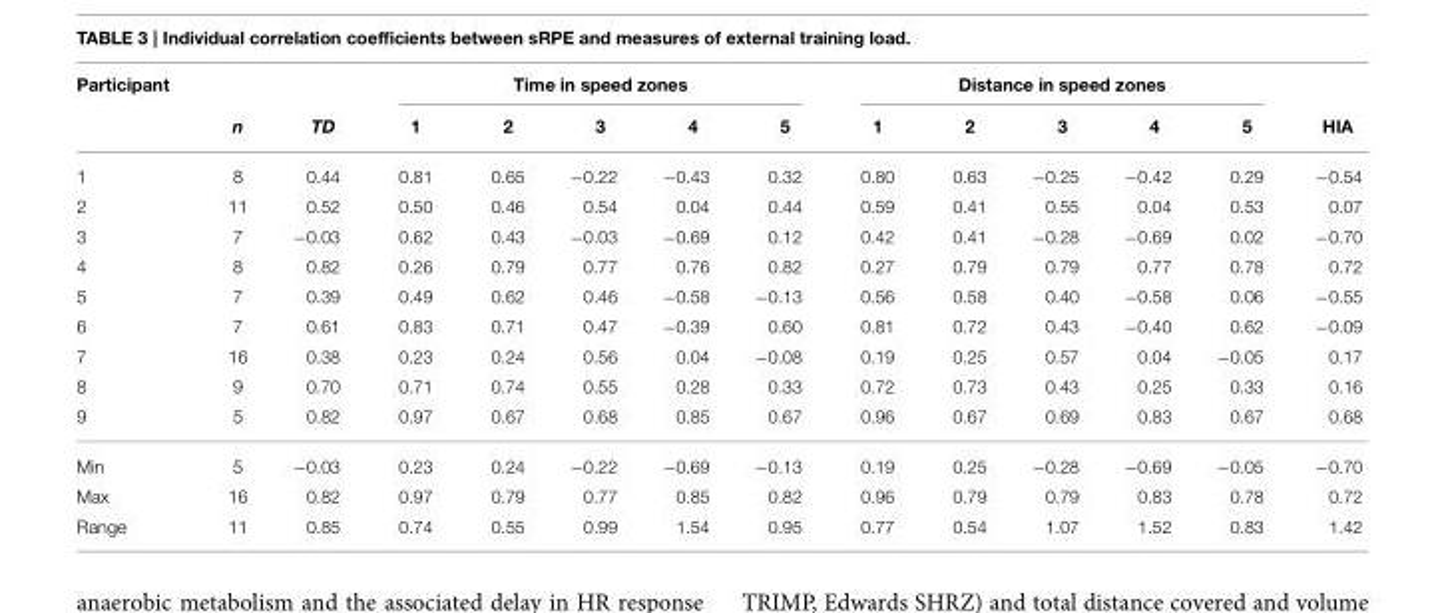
<table><thead><tr><td rowspan="2">Participant</td><td rowspan="2">n</td><td rowspan="2">TD</td><td colspan="5">Time in speed zones</td><td colspan="5">Distance in speed zones</td><td rowspan="2">HIA</td></tr><tr><td>1</td><td>2</td><td>3</td><td>4</td><td>5</td><td>1</td><td>2</td><td>3</td><td>4</td><td>5</td></tr></thead><tbody><tr><td>1</td><td>8</td><td>0.44</td><td>0.81</td><td>0.65</td><td>−0.22</td><td>−0.43</td><td>0.32</td><td>0.80</td><td>0.63</td><td>−0.25</td><td>−0.42</td><td>0.29</td><td>−0.54</td></tr><tr><td>2</td><td>11</td><td>0.52</td><td>0.50</td><td>0.46</td><td>0.54</td><td>0.04</td><td>0.44</td><td>0.59</td><td>0.41</td><td>0.55</td><td>0.04</td><td>0.53</td><td>0.07</td></tr><tr><td>3</td><td>7</td><td>−0.03</td><td>0.62</td><td>0.43</td><td>−0.03</td><td>−0.69</td><td>0.12</td><td>0.42</td><td>0.41</td><td>−0.28</td><td>−0.69</td><td>0.02</td><td>−0.70</td></tr><tr><td>4</td><td>8</td><td>0.82</td><td>0.26</td><td>0.79</td><td>0.77</td><td>0.76</td><td>0.82</td><td>0.27</td><td>0.79</td><td>0.79</td><td>0.77</td><td>0.78</td><td>0.72</td></tr><tr><td>5</td><td>7</td><td>0.39</td><td>0.49</td><td>0.62</td><td>0.46</td><td>−0.58</td><td>−0.13</td><td>0.56</td><td>0.58</td><td>0.40</td><td>−0.58</td><td>0.06</td><td>−0.55</td></tr><tr><td>6</td><td>7</td><td>0.61</td><td>0.83</td><td>0.71</td><td>0.47</td><td>−0.39</td><td>0.60</td><td>0.81</td><td>0.72</td><td>0.43</td><td>−0.40</td><td>0.62</td><td>−0.09</td></tr><tr><td>7</td><td>16</td><td>0.38</td><td>0.23</td><td>0.24</td><td>0.56</td><td>0.04</td><td>−0.08</td><td>0.19</td><td>0.25</td><td>0.57</td><td>0.04</td><td>−0.05</td><td>0.17</td></tr><tr><td>8</td><td>9</td><td>0.70</td><td>0.71</td><td>0.74</td><td>0.55</td><td>0.28</td><td>0.33</td><td>0.72</td><td>0.73</td><td>0.43</td><td>0.25</td><td>0.33</td><td>0.16</td></tr><tr><td>9</td><td>5</td><td>0.82</td><td>0.97</td><td>0.67</td><td>0.68</td><td>0.85</td><td>0.67</td><td>0.96</td><td>0.67</td><td>0.69</td><td>0.83</td><td>0.67</td><td>0.68</td></tr><tr><td>Min</td><td>5</td><td>−0.03</td><td>0.23</td><td>0.24</td><td>−0.22</td><td>−0.69</td><td>−0.13</td><td>0.19</td><td>0.25</td><td>−0.28</td><td>−0.69</td><td>−0.05</td><td>−0.70</td></tr><tr><td>Max</td><td>16</td><td>0.82</td><td>0.97</td><td>0.79</td><td>0.77</td><td>0.85</td><td>0.82</td><td>0.96</td><td>0.79</td><td>0.79</td><td>0.83</td><td>0.78</td><td>0.72</td></tr><tr><td>Range</td><td>11</td><td>0.85</td><td>0.74</td><td>0.55</td><td>0.99</td><td>1.54</td><td>0.95</td><td>0.77</td><td>0.54</td><td>1.07</td><td>1.52</td><td>0.83</td><td>1.42</td></tr></tbody></table>